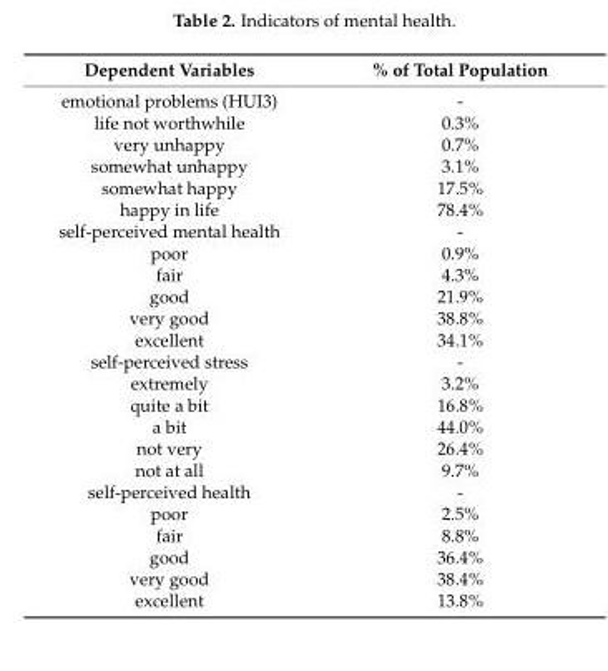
<table><thead><tr><td>Dependent Variables</td><td>% of Total Population</td></tr></thead><tbody><tr><td>emotional problems (HUI3)</td><td>-</td></tr><tr><td>life not worthwhile</td><td>0.3%</td></tr><tr><td>very unhappy</td><td>0.7%</td></tr><tr><td>somewhat unhappy</td><td>3.1%</td></tr><tr><td>somewhat happy</td><td>17.5%</td></tr><tr><td>happy in life</td><td>78.4%</td></tr><tr><td>self-perceived mental health</td><td>-</td></tr><tr><td>poor</td><td>0.9%</td></tr><tr><td>fair</td><td>4.3%</td></tr><tr><td>good</td><td>21.9%</td></tr><tr><td>very good</td><td>38.8%</td></tr><tr><td>excellent</td><td>34.1%</td></tr><tr><td>self-perceived stress</td><td>-</td></tr><tr><td>extremely</td><td>3.2%</td></tr><tr><td>quite a bit</td><td>16.8%</td></tr><tr><td>a bit</td><td>44.0%</td></tr><tr><td>not very</td><td>26.4%</td></tr><tr><td>not at all</td><td>9.7%</td></tr><tr><td>self-perceived health</td><td>-</td></tr><tr><td>poor</td><td>2.5%</td></tr><tr><td>fair</td><td>8.8%</td></tr><tr><td>good</td><td>36.4%</td></tr><tr><td>very good</td><td>38.4%</td></tr><tr><td>excellent</td><td>13.8%</td></tr></tbody></table>